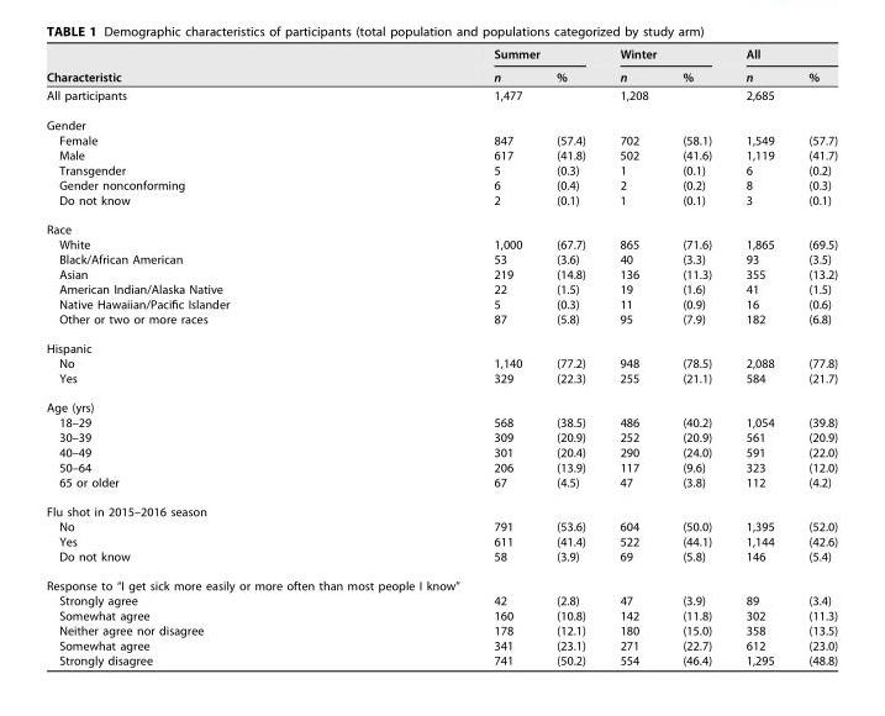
<table><thead><tr><td rowspan="2">Characteristic</td><td colspan="2">Summer</td><td colspan="2">Winter</td><td colspan="2">All</td></tr><tr><td>n</td><td>%</td><td>n</td><td>%</td><td>n</td><td>%</td></tr></thead><tbody><tr><td>All participants</td><td>1,477</td><td></td><td>1,208</td><td></td><td>2,685</td><td></td></tr><tr><td colspan="7">Gender</td></tr><tr><td>Female</td><td>847</td><td>(57.4)</td><td>702</td><td>(58.1)</td><td>1,549</td><td>(57.7)</td></tr><tr><td>Male</td><td>617</td><td>(41.8)</td><td>502</td><td>(41.6)</td><td>1,119</td><td>(41.7)</td></tr><tr><td>Transgender</td><td>5</td><td>(0.3)</td><td>1</td><td>(0.1)</td><td>6</td><td>(0.2)</td></tr><tr><td>Gender nonconforming</td><td>6</td><td>(0.4)</td><td>2</td><td>(0.2)</td><td>8</td><td>(0.3)</td></tr><tr><td>Do not know</td><td>2</td><td>(0.1)</td><td>1</td><td>(0.1)</td><td>3</td><td>(0.1)</td></tr><tr><td colspan="7">Race</td></tr><tr><td>White</td><td>1,000</td><td>(67.7)</td><td>865</td><td>(71.6)</td><td>1,865</td><td>(69.5)</td></tr><tr><td>Black/African American</td><td>53</td><td>(3.6)</td><td>40</td><td>(3.3)</td><td>93</td><td>(3.5)</td></tr><tr><td>Asian</td><td>219</td><td>(14.8)</td><td>136</td><td>(11.3)</td><td>355</td><td>(13.2)</td></tr><tr><td>American Indian/Alaska Native</td><td>22</td><td>(1.5)</td><td>19</td><td>(1.6)</td><td>41</td><td>(1.5)</td></tr><tr><td>Native Hawaiian/Pacific Islander</td><td>5</td><td>(0.3)</td><td>11</td><td>(0.9)</td><td>16</td><td>(0.6)</td></tr><tr><td>Other or two or more races</td><td>87</td><td>(5.8)</td><td>95</td><td>(7.9)</td><td>182</td><td>(6.8)</td></tr><tr><td colspan="7">Hispanic</td></tr><tr><td>No</td><td>1,140</td><td>(77.2)</td><td>948</td><td>(78.5)</td><td>2,088</td><td>(77.8)</td></tr><tr><td>Yes</td><td>329</td><td>(22.3)</td><td>255</td><td>(21.1)</td><td>584</td><td>(21.7)</td></tr><tr><td colspan="7">Age (yrs)</td></tr><tr><td>18–29</td><td>568</td><td>(38.5)</td><td>486</td><td>(40.2)</td><td>1,054</td><td>(39.8)</td></tr><tr><td>30–39</td><td>309</td><td>(20.9)</td><td>252</td><td>(20.9)</td><td>561</td><td>(20.9)</td></tr><tr><td>40–49</td><td>301</td><td>(20.4)</td><td>290</td><td>(24.0)</td><td>591</td><td>(22.0)</td></tr><tr><td>50–64</td><td>206</td><td>(13.9)</td><td>117</td><td>(9.6)</td><td>323</td><td>(12.0)</td></tr><tr><td>65 or older</td><td>67</td><td>(4.5)</td><td>47</td><td>(3.8)</td><td>112</td><td>(4.2)</td></tr><tr><td colspan="7">Flu shot in 2015–2016 season</td></tr><tr><td>No</td><td>791</td><td>(53.6)</td><td>604</td><td>(50.0)</td><td>1,395</td><td>(52.0)</td></tr><tr><td>Yes</td><td>611</td><td>(41.4)</td><td>522</td><td>(44.1)</td><td>1,144</td><td>(42.6)</td></tr><tr><td>Do not know</td><td>58</td><td>(3.9)</td><td>69</td><td>(5.8)</td><td>146</td><td>(5.4)</td></tr><tr><td colspan="7">Response to “I get sick more easily or more often than most people I know”</td></tr><tr><td>Strongly agree</td><td>42</td><td>(2.8)</td><td>47</td><td>(3.9)</td><td>89</td><td>(3.4)</td></tr><tr><td>Somewhat agree</td><td>160</td><td>(10.8)</td><td>142</td><td>(11.8)</td><td>302</td><td>(11.3)</td></tr><tr><td>Neither agree nor disagree</td><td>178</td><td>(12.1)</td><td>180</td><td>(15.0)</td><td>358</td><td>(13.5)</td></tr><tr><td>Somewhat agree</td><td>341</td><td>(23.1)</td><td>271</td><td>(22.7)</td><td>612</td><td>(23.0)</td></tr><tr><td>Strongly disagree</td><td>741</td><td>(50.2)</td><td>554</td><td>(46.4)</td><td>1,295</td><td>(48.8)</td></tr></tbody></table>